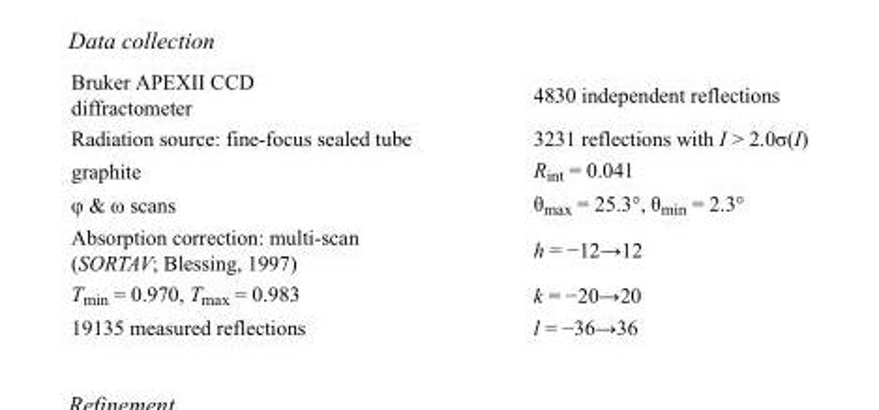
<table><tbody><tr><td>Bruker APEXII CCD diffractometer</td><td>4830 independent reflections</td></tr><tr><td>Radiation source: fine-focus sealed tube</td><td>3231 reflections with I &gt; 2.0σ(I)</td></tr><tr><td>graphite</td><td>R<sub>int</sub> = 0.041</td></tr><tr><td>φ &amp; ω scans</td><td>θ<sub>max</sub> = 25.3°, θ<sub>min</sub> = 2.3°</td></tr><tr><td>Absorption correction: multi-scan (SORTAV; Blessing, 1997)</td><td>h = −12→12</td></tr><tr><td>T<sub>min</sub> = 0.970, T<sub>max</sub> = 0.983</td><td>k = −20→20</td></tr><tr><td>19135 measured reflections</td><td>l = −36→36</td></tr></tbody></table>